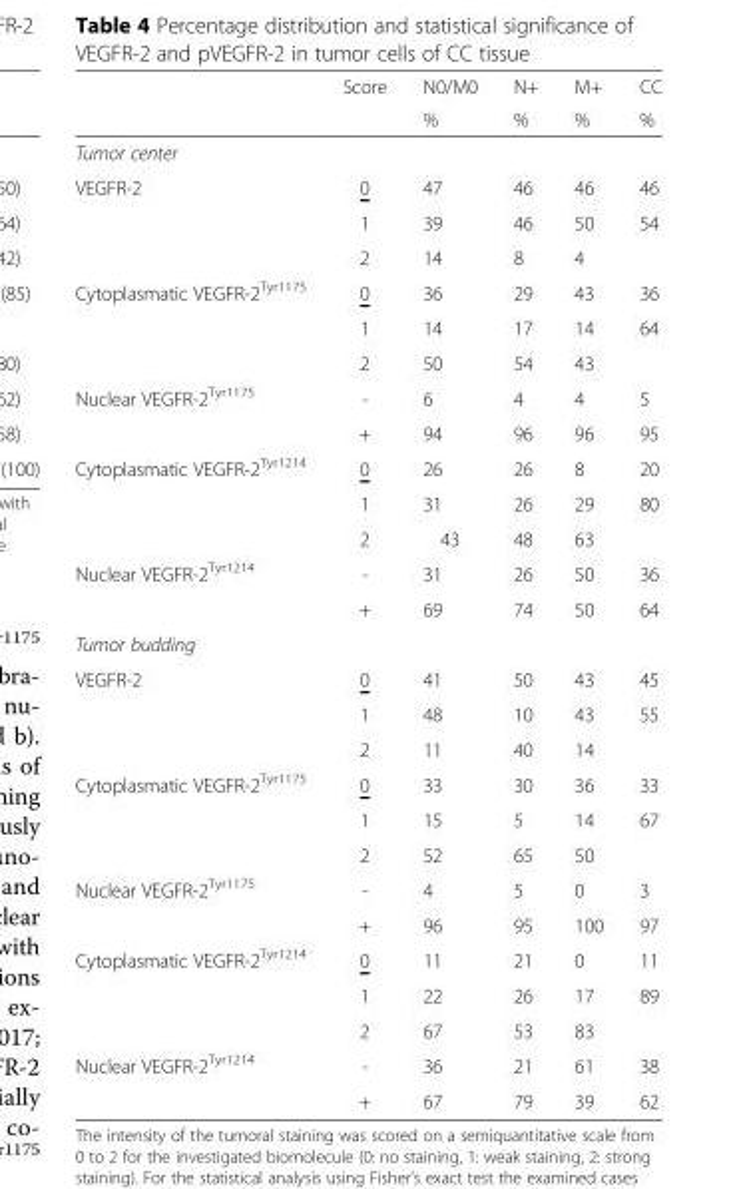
<table><thead><tr><td rowspan="2"></td><td rowspan="2">Score</td><td rowspan="2">N0/M0 %</td><td rowspan="2">N+ %</td><td rowspan="2">M+ %</td><td rowspan="2">CC %</td></tr><tr></tr></thead><tbody><tr><td colspan="6">Tumor center</td></tr><tr><td rowspan="3">VEGFR-2</td><td>0</td><td>47</td><td>46</td><td>46</td><td>46</td></tr><tr><td>1</td><td>39</td><td>46</td><td>50</td><td rowspan="2">54</td></tr><tr><td>2</td><td>14</td><td>8</td><td>4</td></tr><tr><td rowspan="3">Cytoplasmatic VEGFR-2<sup>Tyr1175</sup></td><td>0</td><td>36</td><td>29</td><td>43</td><td>36</td></tr><tr><td>1</td><td>14</td><td>17</td><td>14</td><td rowspan="2">64</td></tr><tr><td>2</td><td>50</td><td>54</td><td>43</td></tr><tr><td rowspan="2">Nuclear VEGFR-2<sup>Tyr1175</sup></td><td>-</td><td>6</td><td>4</td><td>4</td><td>5</td></tr><tr><td>+</td><td>94</td><td>96</td><td>96</td><td>95</td></tr><tr><td rowspan="3">Cytoplasmatic VEGFR-2<sup>Tyr1214</sup></td><td>0</td><td>26</td><td>26</td><td>8</td><td>20</td></tr><tr><td>1</td><td>31</td><td>26</td><td>29</td><td rowspan="2">80</td></tr><tr><td>2</td><td>43</td><td>48</td><td>63</td></tr><tr><td rowspan="2">Nuclear VEGFR-2<sup>Tyr1214</sup></td><td>-</td><td>31</td><td>26</td><td>50</td><td>36</td></tr><tr><td>+</td><td>69</td><td>74</td><td>50</td><td>64</td></tr><tr><td colspan="6">Tumor budding</td></tr><tr><td rowspan="3">VEGFR-2</td><td>0</td><td>41</td><td>50</td><td>43</td><td>45</td></tr><tr><td>1</td><td>48</td><td>10</td><td>43</td><td rowspan="2">55</td></tr><tr><td>2</td><td>11</td><td>40</td><td>14</td></tr><tr><td rowspan="3">Cytoplasmatic VEGFR-2<sup>Tyr1175</sup></td><td>0</td><td>33</td><td>30</td><td>36</td><td>33</td></tr><tr><td>1</td><td>15</td><td>5</td><td>14</td><td rowspan="2">67</td></tr><tr><td>2</td><td>52</td><td>65</td><td>50</td></tr><tr><td rowspan="2">Nuclear VEGFR-2<sup>Tyr1175</sup></td><td>-</td><td>4</td><td>5</td><td>0</td><td>3</td></tr><tr><td>+</td><td>96</td><td>95</td><td>100</td><td>97</td></tr><tr><td rowspan="3">Cytoplasmatic VEGFR-2<sup>Tyr1214</sup></td><td>0</td><td>11</td><td>21</td><td>0</td><td>11</td></tr><tr><td>1</td><td>22</td><td>26</td><td>17</td><td rowspan="2">89</td></tr><tr><td>2</td><td>67</td><td>53</td><td>83</td></tr><tr><td rowspan="2">Nuclear VEGFR-2<sup>Tyr1214</sup></td><td>-</td><td>36</td><td>21</td><td>61</td><td>38</td></tr><tr><td>+</td><td>67</td><td>79</td><td>39</td><td>62</td></tr></tbody></table>